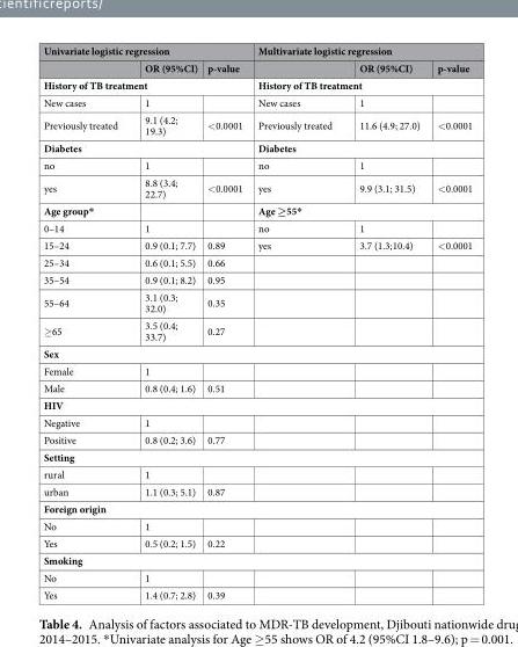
<table><thead><tr><td colspan="3">Univariate logistic regression</td><td colspan="3">Multivariate logistic regression</td></tr><tr><td></td><td>OR (95%CI)</td><td>p-value</td><td></td><td>OR (95%CI)</td><td>p-value</td></tr></thead><tbody><tr><td colspan="3">History of TB treatment</td><td colspan="3">History of TB treatment</td></tr><tr><td>New cases</td><td>1</td><td></td><td>New cases</td><td>1</td><td></td></tr><tr><td>Previously treated</td><td>9.1 (4.2; 19.3)</td><td>&lt;0.0001</td><td>Previously treated</td><td>11.6 (4.9; 27.0)</td><td>&lt;0.0001</td></tr><tr><td colspan="3">Diabetes</td><td colspan="3">Diabetes</td></tr><tr><td>no</td><td>1</td><td></td><td>no</td><td>1</td><td></td></tr><tr><td>yes</td><td>8.8 (3.4; 22.7)</td><td>&lt;0.0001</td><td>yes</td><td>9.9 (3.1; 31.5)</td><td>&lt;0.0001</td></tr><tr><td>Age group*</td><td></td><td></td><td colspan="3">Age ≥55*</td></tr><tr><td>0–14</td><td>1</td><td></td><td>no</td><td>1</td><td></td></tr><tr><td>15–24</td><td>0.9 (0.1; 7.7)</td><td>0.89</td><td>yes</td><td>3.7 (1.3;10.4)</td><td>&lt;0.0001</td></tr><tr><td>25–34</td><td>0.6 (0.1; 5.5)</td><td>0.66</td><td></td><td></td><td></td></tr><tr><td>35–54</td><td>0.9 (0.1; 8.2)</td><td>0.95</td><td></td><td></td><td></td></tr><tr><td>55–64</td><td>3.1 (0.3; 32.0)</td><td>0.35</td><td></td><td></td><td></td></tr><tr><td>≥65</td><td>3.5 (0.4; 33.7)</td><td>0.27</td><td></td><td></td><td></td></tr><tr><td colspan="6">Sex</td></tr><tr><td>Female</td><td>1</td><td></td><td></td><td></td><td></td></tr><tr><td>Male</td><td>0.8 (0.4; 1.6)</td><td>0.51</td><td></td><td></td><td></td></tr><tr><td colspan="6">HIV</td></tr><tr><td>Negative</td><td>1</td><td></td><td></td><td></td><td></td></tr><tr><td>Positive</td><td>0.8 (0.2; 3.6)</td><td>0.77</td><td></td><td></td><td></td></tr><tr><td colspan="6">Setting</td></tr><tr><td>rural</td><td>1</td><td></td><td></td><td></td><td></td></tr><tr><td>urban</td><td>1.1 (0.3; 5.1)</td><td>0.87</td><td></td><td></td><td></td></tr><tr><td colspan="6">Foreign origin</td></tr><tr><td>No</td><td>1</td><td></td><td></td><td></td><td></td></tr><tr><td>Yes</td><td>0.5 (0.2; 1.5)</td><td>0.22</td><td></td><td></td><td></td></tr><tr><td colspan="6">Smoking</td></tr><tr><td>No</td><td>1</td><td></td><td></td><td></td><td></td></tr><tr><td>Yes</td><td>1.4 (0.7; 2.8)</td><td>0.39</td><td></td><td></td><td></td></tr></tbody></table>